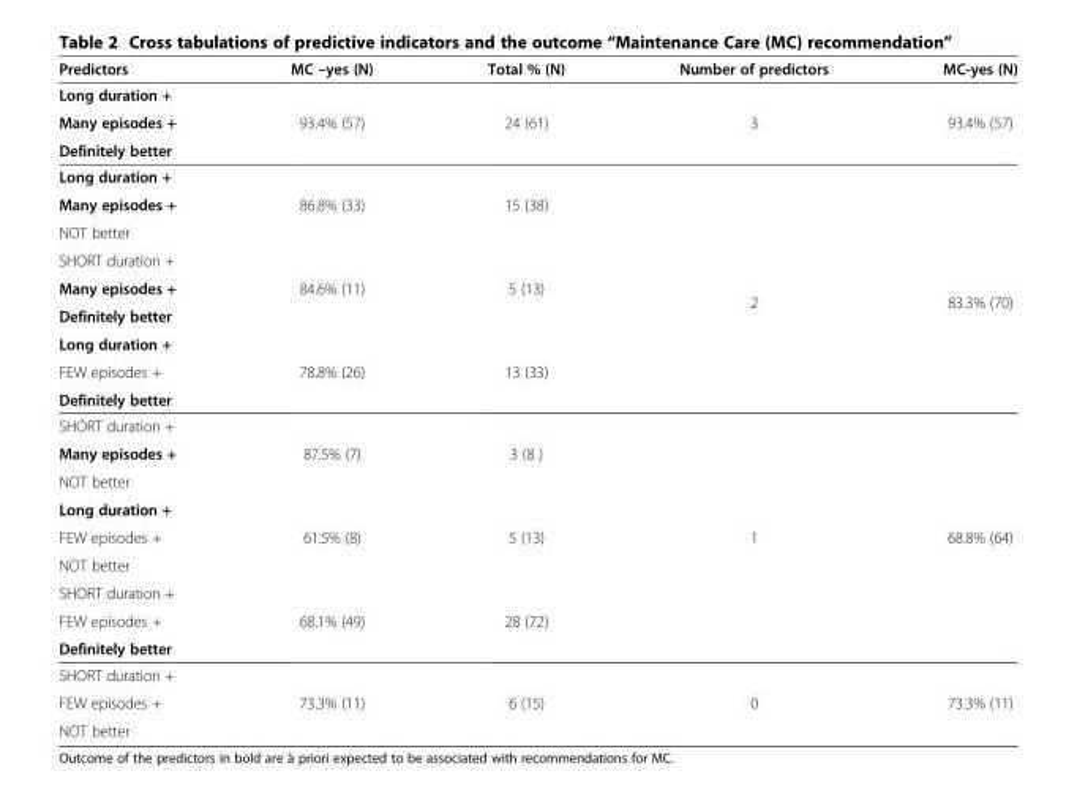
<table><thead><tr><td>Predictors</td><td>MC –yes (N)</td><td>Total % (N)</td><td>Number of predictors</td><td>MC-yes (N)</td></tr></thead><tbody><tr><td colspan="5">Long duration +</td></tr><tr><td>Many episodes +</td><td>93.4% (57)</td><td>24 (61)</td><td>3</td><td>93.4% (57)</td></tr><tr><td colspan="5">Definitely better</td></tr><tr><td colspan="5">Long duration +</td></tr><tr><td>Many episodes +</td><td>86.8% (33)</td><td>15 (38)</td><td rowspan="8">2</td><td rowspan="8">83.3% (70)</td></tr><tr><td colspan="3">NOT better</td></tr><tr><td colspan="3">SHORT duration +</td></tr><tr><td>Many episodes +</td><td>84.6% (11)</td><td>5 (13)</td></tr><tr><td colspan="3">Definitely better</td></tr><tr><td colspan="3">Long duration +</td></tr><tr><td>FEW episodes +</td><td>78.8% (26)</td><td>13 (33)</td></tr><tr><td colspan="3">Definitely better</td></tr><tr><td colspan="3">SHORT duration +</td><td rowspan="9">1</td><td rowspan="9">68.8% (64)</td></tr><tr><td>Many episodes +</td><td>87.5% (7)</td><td>3 (8 )</td></tr><tr><td colspan="3">NOT better</td></tr><tr><td colspan="3">Long duration +</td></tr><tr><td>FEW episodes +</td><td>61.5% (8)</td><td>5 (13)</td></tr><tr><td colspan="3">NOT better</td></tr><tr><td colspan="3">SHORT duration +</td></tr><tr><td>FEW episodes +</td><td>68.1% (49)</td><td>28 (72)</td></tr><tr><td colspan="3">Definitely better</td></tr><tr><td colspan="5">SHORT duration +</td></tr><tr><td>FEW episodes +</td><td>73.3% (11)</td><td>6 (15)</td><td>0</td><td>73.3% (11)</td></tr><tr><td>NOT better</td><td></td><td></td><td></td><td></td></tr></tbody></table>